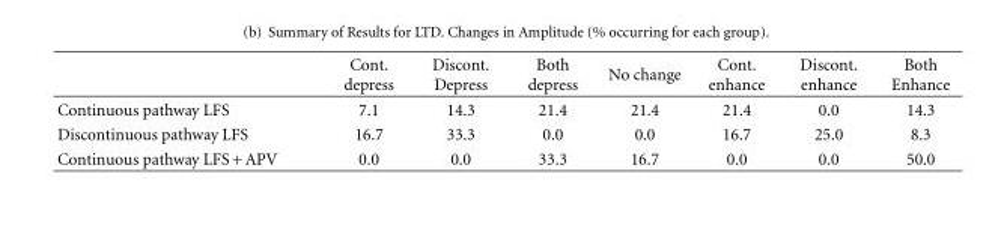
<table><thead><tr><td></td><td>Cont. depress</td><td>Discont. Depress</td><td>Both depress</td><td>No change</td><td>Cont. enhance</td><td>Discont. enhance</td><td>Both Enhance</td></tr></thead><tbody><tr><td>Continuous pathway LFS</td><td>7.1</td><td>14.3</td><td>21.4</td><td>21.4</td><td>21.4</td><td>0.0</td><td>14.3</td></tr><tr><td>Discontinuous pathway LFS</td><td>16.7</td><td>33.3</td><td>0.0</td><td>0.0</td><td>16.7</td><td>25.0</td><td>8.3</td></tr><tr><td>Continuous pathway LFS + APV</td><td>0.0</td><td>0.0</td><td>33.3</td><td>16.7</td><td>0.0</td><td>0.0</td><td>50.0</td></tr></tbody></table>